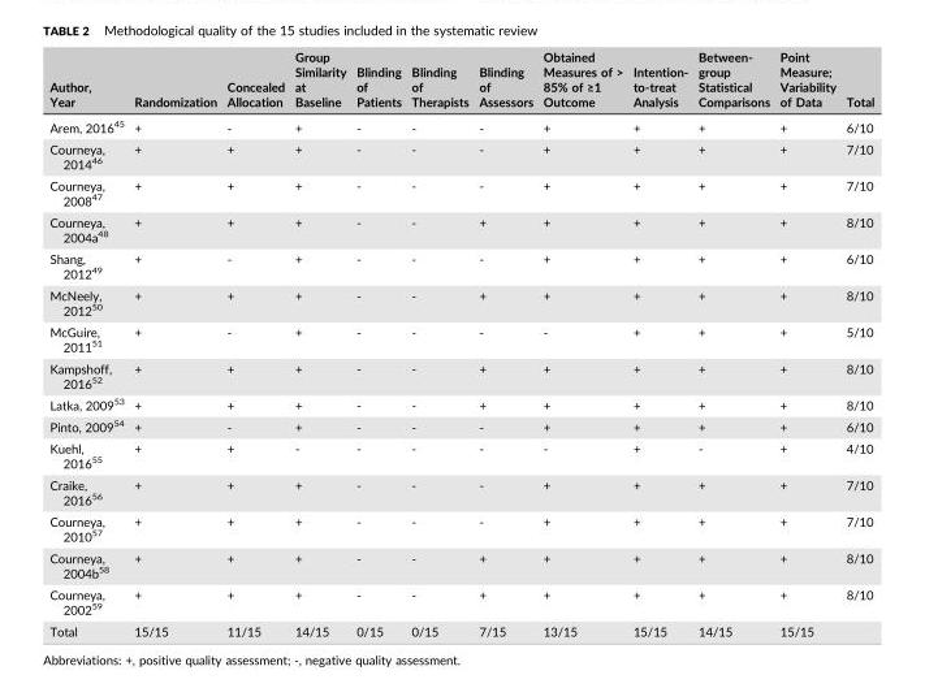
<table><thead><tr><td>Author, Year</td><td>Randomization</td><td>Concealed Allocation</td><td>Group Similarity at Baseline</td><td>Blinding of Patients</td><td>Blinding of Therapists</td><td>Blinding of Assessors</td><td>Obtained Measures of &gt; 85% of ≥1 Outcome</td><td>Intention‐ to‐treat Analysis</td><td>Between‐ group Statistical Comparisons</td><td>Point Measure; Variability of Data</td><td>Total</td></tr></thead><tbody><tr><td>Arem, 2016<sup>45</sup></td><td>+</td><td>‐</td><td>+</td><td>‐</td><td>‐</td><td>‐</td><td>+</td><td>+</td><td>+</td><td>+</td><td>6/10</td></tr><tr><td>Courneya, 2014<sup>46</sup></td><td>+</td><td>+</td><td>+</td><td>‐</td><td>‐</td><td>‐</td><td>+</td><td>+</td><td>+</td><td>+</td><td>7/10</td></tr><tr><td>Courneya, 2008<sup>47</sup></td><td>+</td><td>+</td><td>+</td><td>‐</td><td>‐</td><td>‐</td><td>+</td><td>+</td><td>+</td><td>+</td><td>7/10</td></tr><tr><td>Courneya, 2004a<sup>48</sup></td><td>+</td><td>+</td><td>+</td><td>‐</td><td>‐</td><td>+</td><td>+</td><td>+</td><td>+</td><td>+</td><td>8/10</td></tr><tr><td>Shang, 2012<sup>49</sup></td><td>+</td><td>‐</td><td>+</td><td>‐</td><td>‐</td><td>‐</td><td>+</td><td>+</td><td>+</td><td>+</td><td>6/10</td></tr><tr><td>McNeely, 2012<sup>50</sup></td><td>+</td><td>+</td><td>+</td><td>‐</td><td>‐</td><td>+</td><td>+</td><td>+</td><td>+</td><td>+</td><td>8/10</td></tr><tr><td>McGuire, 2011<sup>51</sup></td><td>+</td><td>‐</td><td>+</td><td>‐</td><td>‐</td><td>‐</td><td>‐</td><td>+</td><td>+</td><td>+</td><td>5/10</td></tr><tr><td>Kampshoff, 2016<sup>52</sup></td><td>+</td><td>+</td><td>+</td><td>‐</td><td>‐</td><td>+</td><td>+</td><td>+</td><td>+</td><td>+</td><td>8/10</td></tr><tr><td>Latka, 2009<sup>53</sup></td><td>+</td><td>+</td><td>+</td><td>‐</td><td>‐</td><td>+</td><td>+</td><td>+</td><td>+</td><td>+</td><td>8/10</td></tr><tr><td>Pinto, 2009<sup>54</sup></td><td>+</td><td>‐</td><td>+</td><td>‐</td><td>‐</td><td>‐</td><td>+</td><td>+</td><td>+</td><td>+</td><td>6/10</td></tr><tr><td>Kuehl, 2016<sup>55</sup></td><td>+</td><td>+</td><td>‐</td><td>‐</td><td>‐</td><td>‐</td><td>‐</td><td>+</td><td>‐</td><td>+</td><td>4/10</td></tr><tr><td>Craike, 2016<sup>56</sup></td><td>+</td><td>+</td><td>+</td><td>‐</td><td>‐</td><td>‐</td><td>+</td><td>+</td><td>+</td><td>+</td><td>7/10</td></tr><tr><td>Courneya, 2010<sup>57</sup></td><td>+</td><td>+</td><td>+</td><td>‐</td><td>‐</td><td>‐</td><td>+</td><td>+</td><td>+</td><td>+</td><td>7/10</td></tr><tr><td>Courneya, 2004b<sup>58</sup></td><td>+</td><td>+</td><td>+</td><td>‐</td><td>‐</td><td>+</td><td>+</td><td>+</td><td>+</td><td>+</td><td>8/10</td></tr><tr><td>Courneya, 2002<sup>59</sup></td><td>+</td><td>+</td><td>+</td><td>‐</td><td>‐</td><td>+</td><td>+</td><td>+</td><td>+</td><td>+</td><td>8/10</td></tr><tr><td>Total</td><td>15/15</td><td>11/15</td><td>14/15</td><td>0/15</td><td>0/15</td><td>7/15</td><td>13/15</td><td>15/15</td><td>14/15</td><td>15/15</td><td></td></tr></tbody></table>